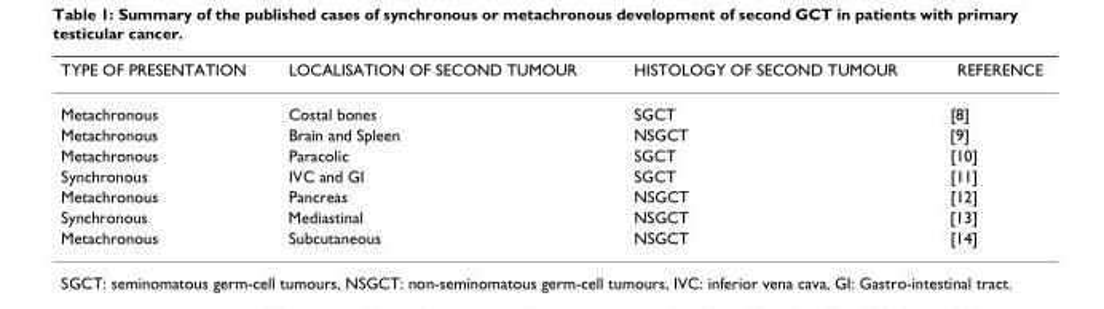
<table><thead><tr><td>TYPE OF PRESENTATION</td><td>LOCALISATION OF SECOND TUMOUR</td><td>HISTOLOGY OF SECOND TUMOUR</td><td>REFERENCE</td></tr></thead><tbody><tr><td>Metachronous</td><td>Costal bones</td><td>SGCT</td><td>[8]</td></tr><tr><td>Metachronous</td><td>Brain and Spleen</td><td>NSGCT</td><td>[9]</td></tr><tr><td>Metachronous</td><td>Paracolic</td><td>SGCT</td><td>[10]</td></tr><tr><td>Synchronous</td><td>IVC and GI</td><td>SGCT</td><td>[11]</td></tr><tr><td>Metachronous</td><td>Pancreas</td><td>NSGCT</td><td>[12]</td></tr><tr><td>Synchronous</td><td>Mediastinal</td><td>NSGCT</td><td>[13]</td></tr><tr><td>Metachronous</td><td>Subcutaneous</td><td>NSGCT</td><td>[14]</td></tr></tbody></table>